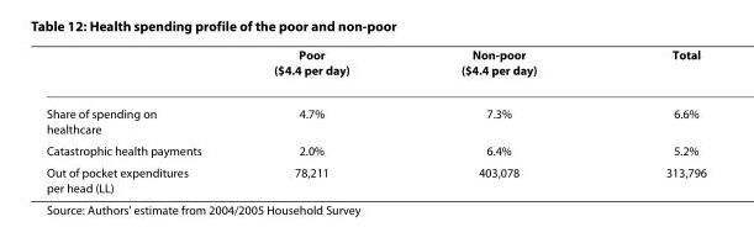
<table><thead><tr><td></td><td>Poor ($4.4 per day)</td><td>Non-poor ($4.4 per day)</td><td>Total</td></tr></thead><tbody><tr><td>Share of spending on healthcare</td><td>4.7%</td><td>7.3%</td><td>6.6%</td></tr><tr><td>Catastrophic health payments</td><td>2.0%</td><td>6.4%</td><td>5.2%</td></tr><tr><td>Out of pocket expenditures per head (LL)</td><td>78,211</td><td>403,078</td><td>313,796</td></tr></tbody></table>